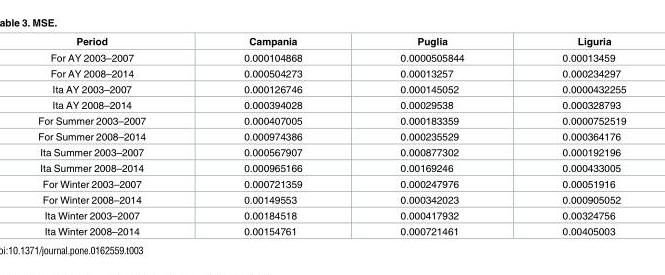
<table><thead><tr><td>Period</td><td>Campania</td><td>Puglia</td><td>Liguria</td></tr></thead><tbody><tr><td>For AY 2003–2007</td><td>0.000104868</td><td>0.0000505844</td><td>0.00013459</td></tr><tr><td>For AY 2008–2014</td><td>0.000504273</td><td>0.00013257</td><td>0.000234297</td></tr><tr><td>Ita AY 2003–2007</td><td>0.000126746</td><td>0.000145052</td><td>0.0000432255</td></tr><tr><td>Ita AY 2008–2014</td><td>0.000394028</td><td>0.00029538</td><td>0.000328793</td></tr><tr><td>For Summer 2003–2007</td><td>0.000407005</td><td>0.000183359</td><td>0.0000752519</td></tr><tr><td>For Summer 2008–2014</td><td>0.000974386</td><td>0.000235529</td><td>0.000364176</td></tr><tr><td>Ita Summer 2003–2007</td><td>0.000567907</td><td>0.000877302</td><td>0.000192196</td></tr><tr><td>Ita Summer 2008–2014</td><td>0.000965166</td><td>0.00169246</td><td>0.000433005</td></tr><tr><td>For Winter 2003–2007</td><td>0.000721359</td><td>0.000247976</td><td>0.00051916</td></tr><tr><td>For Winter 2008–2014</td><td>0.00149553</td><td>0.000342023</td><td>0.000905052</td></tr><tr><td>Ita Winter 2003–2007</td><td>0.00184518</td><td>0.000417932</td><td>0.00324756</td></tr><tr><td>Ita Winter 2008–2014</td><td>0.00154761</td><td>0.000721461</td><td>0.00405003</td></tr></tbody></table>